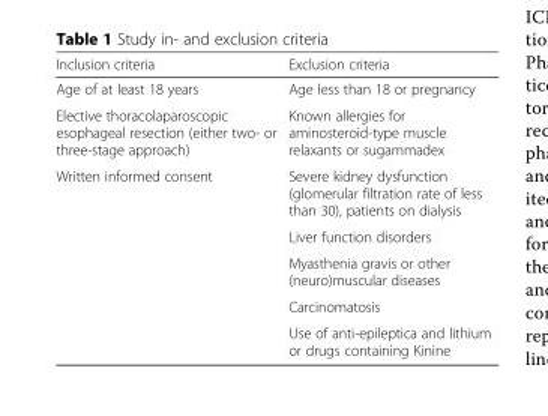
<table><thead><tr><td>Inclusion criteria</td><td>Exclusion criteria</td></tr></thead><tbody><tr><td>Age of at least 18 years</td><td>Age less than 18 or pregnancy</td></tr><tr><td>Elective thoracolaparoscopic esophageal resection (either two- or three-stage approach)</td><td>Known allergies for aminosteroid-type muscle relaxants or sugammadex</td></tr><tr><td rowspan="5">Written informed consent</td><td>Severe kidney dysfunction (glomerular filtration rate of less than 30), patients on dialysis</td></tr><tr><td>Liver function disorders</td></tr><tr><td>Myasthenia gravis or other (neuro)muscular diseases</td></tr><tr><td>Carcinomatosis</td></tr><tr><td>Use of anti-epileptica and lithium or drugs containing Kinine</td></tr></tbody></table>